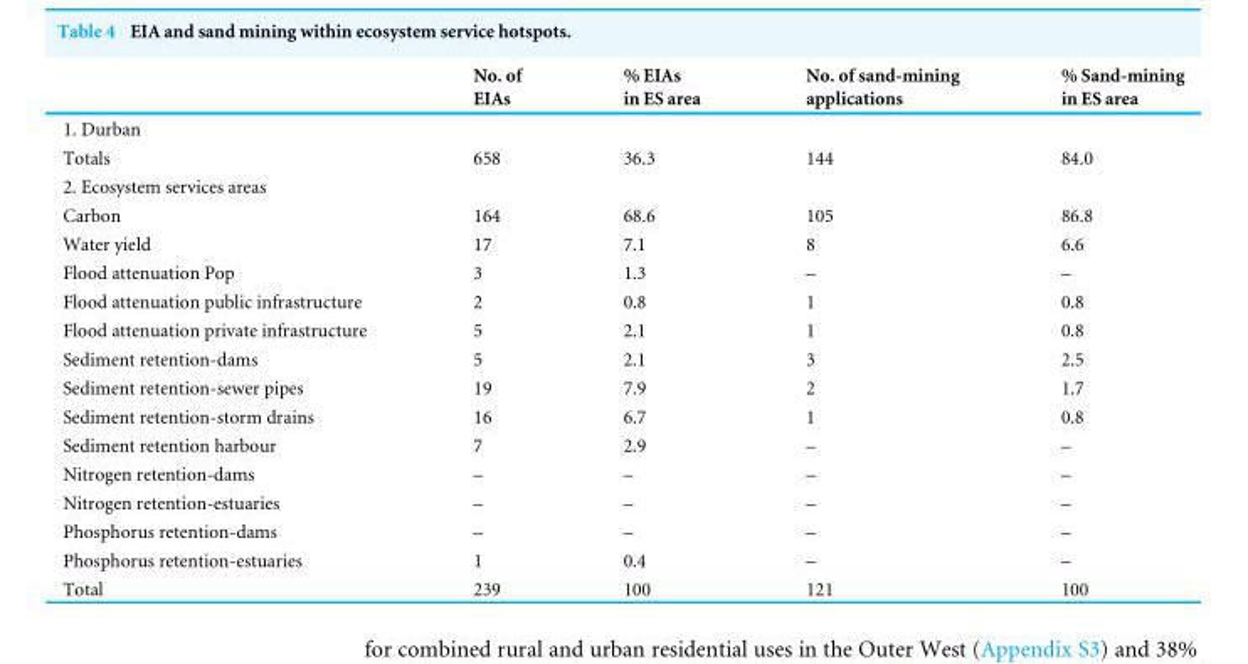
<table><thead><tr><td></td><td>No. of EIAs</td><td>% EIAs in ES area</td><td>No. of sand-mining applications</td><td>% Sand-mining in ES area</td></tr></thead><tbody><tr><td colspan="5">1. Durban</td></tr><tr><td>Totals</td><td>658</td><td>36.3</td><td>144</td><td>84.0</td></tr><tr><td colspan="5">2. Ecosystem services areas</td></tr><tr><td>Carbon</td><td>164</td><td>68.6</td><td>105</td><td>86.8</td></tr><tr><td>Water yield</td><td>17</td><td>7.1</td><td>8</td><td>6.6</td></tr><tr><td>Flood attenuation Pop</td><td>3</td><td>1.3</td><td>–</td><td>–</td></tr><tr><td>Flood attenuation public infrastructure</td><td>2</td><td>0.8</td><td>1</td><td>0.8</td></tr><tr><td>Flood attenuation private infrastructure</td><td>5</td><td>2.1</td><td>1</td><td>0.8</td></tr><tr><td>Sediment retention-dams</td><td>5</td><td>2.1</td><td>3</td><td>2.5</td></tr><tr><td>Sediment retention-sewer pipes</td><td>19</td><td>7.9</td><td>2</td><td>1.7</td></tr><tr><td>Sediment retention-storm drains</td><td>16</td><td>6.7</td><td>1</td><td>0.8</td></tr><tr><td>Sediment retention harbour</td><td>7</td><td>2.9</td><td>–</td><td>–</td></tr><tr><td>Nitrogen retention-dams</td><td>–</td><td>–</td><td>–</td><td>–</td></tr><tr><td>Nitrogen retention-estuaries</td><td>–</td><td>–</td><td>–</td><td>–</td></tr><tr><td>Phosphorus retention-dams</td><td>–</td><td>–</td><td>–</td><td>–</td></tr><tr><td>Phosphorus retention-estuaries</td><td>1</td><td>0.4</td><td>–</td><td>–</td></tr><tr><td>Total</td><td>239</td><td>100</td><td>121</td><td>100</td></tr></tbody></table>